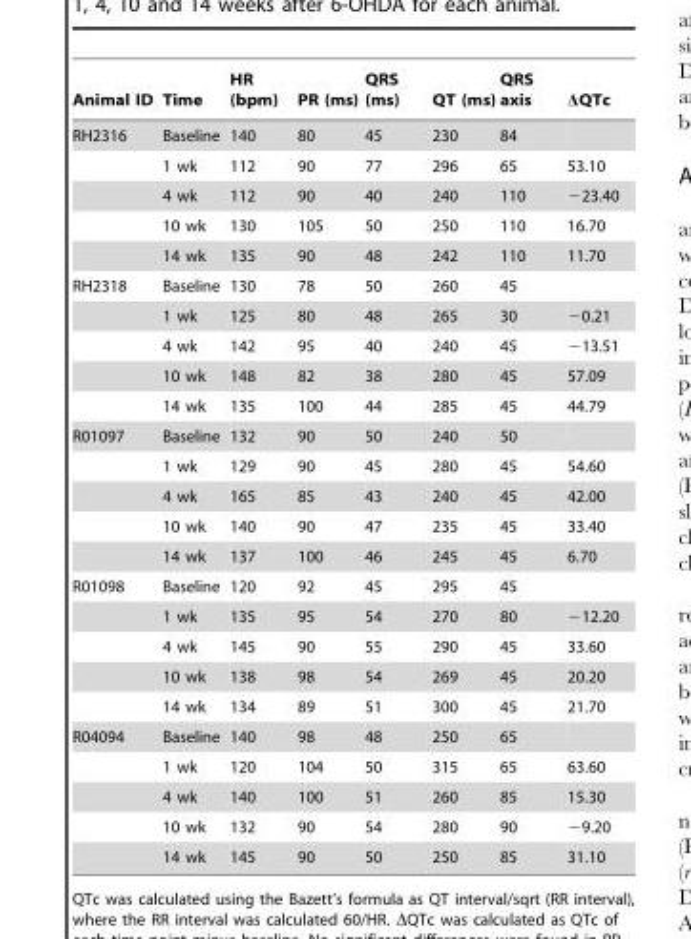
<table><thead><tr><td>Animal ID</td><td>Time</td><td>HR (bpm)</td><td>PR (ms)</td><td>QRS (ms)</td><td>QT (ms)</td><td>QRS axis</td><td>ΔQTc</td></tr></thead><tbody><tr><td rowspan="5">RH2316</td><td>Baseline</td><td>140</td><td>80</td><td>45</td><td>230</td><td>84</td><td></td></tr><tr><td>1 wk</td><td>112</td><td>90</td><td>77</td><td>296</td><td>65</td><td>53.10</td></tr><tr><td>4 wk</td><td>112</td><td>90</td><td>40</td><td>240</td><td>110</td><td>−23.40</td></tr><tr><td>10 wk</td><td>130</td><td>105</td><td>50</td><td>250</td><td>110</td><td>16.70</td></tr><tr><td>14 wk</td><td>135</td><td>90</td><td>48</td><td>242</td><td>110</td><td>11.70</td></tr><tr><td rowspan="5">RH2318</td><td>Baseline</td><td>130</td><td>78</td><td>50</td><td>260</td><td>45</td><td></td></tr><tr><td>1 wk</td><td>125</td><td>80</td><td>48</td><td>265</td><td>30</td><td>−0.21</td></tr><tr><td>4 wk</td><td>142</td><td>95</td><td>40</td><td>240</td><td>45</td><td>−13.51</td></tr><tr><td>10 wk</td><td>148</td><td>82</td><td>38</td><td>280</td><td>45</td><td>57.09</td></tr><tr><td>14 wk</td><td>135</td><td>100</td><td>44</td><td>285</td><td>45</td><td>44.79</td></tr><tr><td rowspan="5">R01097</td><td>Baseline</td><td>132</td><td>90</td><td>50</td><td>240</td><td>50</td><td></td></tr><tr><td>1 wk</td><td>129</td><td>90</td><td>45</td><td>280</td><td>45</td><td>54.60</td></tr><tr><td>4 wk</td><td>165</td><td>85</td><td>43</td><td>240</td><td>45</td><td>42.00</td></tr><tr><td>10 wk</td><td>140</td><td>90</td><td>47</td><td>235</td><td>45</td><td>33.40</td></tr><tr><td>14 wk</td><td>137</td><td>100</td><td>46</td><td>245</td><td>45</td><td>6.70</td></tr><tr><td rowspan="5">R01098</td><td>Baseline</td><td>120</td><td>92</td><td>45</td><td>295</td><td>45</td><td></td></tr><tr><td>1 wk</td><td>135</td><td>95</td><td>54</td><td>270</td><td>80</td><td>−12.20</td></tr><tr><td>4 wk</td><td>145</td><td>90</td><td>55</td><td>290</td><td>45</td><td>33.60</td></tr><tr><td>10 wk</td><td>138</td><td>98</td><td>54</td><td>269</td><td>45</td><td>20.20</td></tr><tr><td>14 wk</td><td>134</td><td>89</td><td>51</td><td>300</td><td>45</td><td>21.70</td></tr><tr><td rowspan="5">R04094</td><td>Baseline</td><td>140</td><td>98</td><td>48</td><td>250</td><td>65</td><td></td></tr><tr><td>1 wk</td><td>120</td><td>104</td><td>50</td><td>315</td><td>65</td><td>63.60</td></tr><tr><td>4 wk</td><td>140</td><td>100</td><td>51</td><td>260</td><td>85</td><td>15.30</td></tr><tr><td>10 wk</td><td>132</td><td>90</td><td>54</td><td>280</td><td>90</td><td>−9.20</td></tr><tr><td>14 wk</td><td>145</td><td>90</td><td>50</td><td>250</td><td>85</td><td>31.10</td></tr></tbody></table>